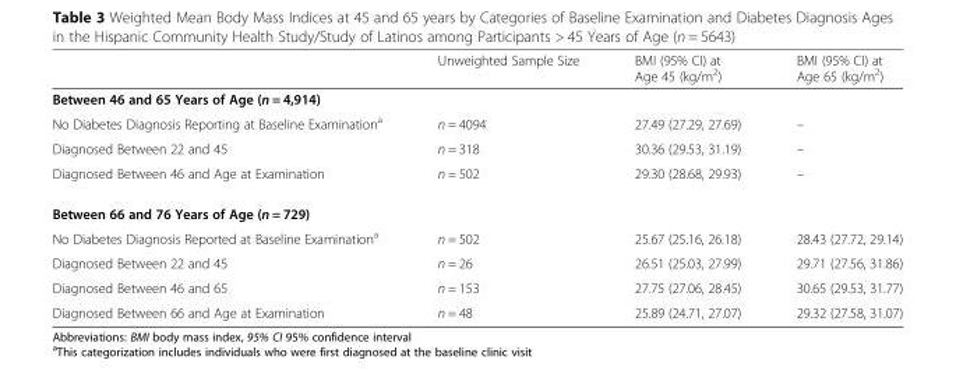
<table><thead><tr><td></td><td>Unweighted Sample Size</td><td>BMI (95% CI) at Age 45 (kg/m<sup>2</sup>)</td><td>BMI (95% CI) at Age 65 (kg/m<sup>2</sup>)</td></tr></thead><tbody><tr><td colspan="4">Between 46 and 65 Years of Age (n = 4,914)</td></tr><tr><td>No Diabetes Diagnosis Reporting at Baseline Examination<sup>a</sup></td><td>n = 4094</td><td>27.49 (27.29, 27.69)</td><td>–</td></tr><tr><td>Diagnosed Between 22 and 45</td><td>n = 318</td><td>30.36 (29.53, 31.19)</td><td>–</td></tr><tr><td>Diagnosed Between 46 and Age at Examination</td><td>n = 502</td><td>29.30 (28.68, 29.93)</td><td>–</td></tr><tr><td colspan="4">Between 66 and 76 Years of Age (n = 729)</td></tr><tr><td>No Diabetes Diagnosis Reported at Baseline Examination<sup>a</sup></td><td>n = 502</td><td>25.67 (25.16, 26.18)</td><td>28.43 (27.72, 29.14)</td></tr><tr><td>Diagnosed Between 22 and 45</td><td>n = 26</td><td>26.51 (25.03, 27.99)</td><td>29.71 (27.56, 31.86)</td></tr><tr><td>Diagnosed Between 46 and 65</td><td>n = 153</td><td>27.75 (27.06, 28.45)</td><td>30.65 (29.53, 31.77)</td></tr><tr><td>Diagnosed Between 66 and Age at Examination</td><td>n = 48</td><td>25.89 (24.71, 27.07)</td><td>29.32 (27.58, 31.07)</td></tr></tbody></table>